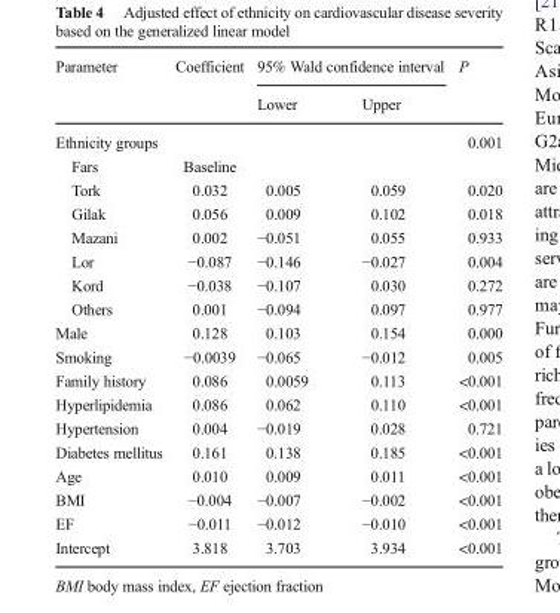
<table><thead><tr><td rowspan="2">Parameter</td><td rowspan="2">Coefficient</td><td colspan="2">95% Wald confidence interval</td><td rowspan="2">P</td></tr><tr><td>Lower</td><td>Upper</td></tr></thead><tbody><tr><td>Ethnicity groups</td><td></td><td></td><td></td><td>0.001</td></tr><tr><td>Fars</td><td>Baseline</td><td></td><td></td><td></td></tr><tr><td>Tork</td><td>0.032</td><td>0.005</td><td>0.059</td><td>0.020</td></tr><tr><td>Gilak</td><td>0.056</td><td>0.009</td><td>0.102</td><td>0.018</td></tr><tr><td>Mazani</td><td>0.002</td><td>−0.051</td><td>0.055</td><td>0.933</td></tr><tr><td>Lor</td><td>−0.087</td><td>−0.146</td><td>−0.027</td><td>0.004</td></tr><tr><td>Kord</td><td>−0.038</td><td>−0.107</td><td>0.030</td><td>0.272</td></tr><tr><td>Others</td><td>0.001</td><td>−0.094</td><td>0.097</td><td>0.977</td></tr><tr><td>Male</td><td>0.128</td><td>0.103</td><td>0.154</td><td>0.000</td></tr><tr><td>Smoking</td><td>−0.0039</td><td>−0.065</td><td>−0.012</td><td>0.005</td></tr><tr><td>Family history</td><td>0.086</td><td>0.0059</td><td>0.113</td><td>&lt;0.001</td></tr><tr><td>Hyperlipidemia</td><td>0.086</td><td>0.062</td><td>0.110</td><td>&lt;0.001</td></tr><tr><td>Hypertension</td><td>0.004</td><td>−0.019</td><td>0.028</td><td>0.721</td></tr><tr><td>Diabetes mellitus</td><td>0.161</td><td>0.138</td><td>0.185</td><td>&lt;0.001</td></tr><tr><td>Age</td><td>0.010</td><td>0.009</td><td>0.011</td><td>&lt;0.001</td></tr><tr><td>BMI</td><td>−0.004</td><td>−0.007</td><td>−0.002</td><td>&lt;0.001</td></tr><tr><td>EF</td><td>−0.011</td><td>−0.012</td><td>−0.010</td><td>&lt;0.001</td></tr><tr><td>Intercept</td><td>3.818</td><td>3.703</td><td>3.934</td><td>&lt;0.001</td></tr></tbody></table>